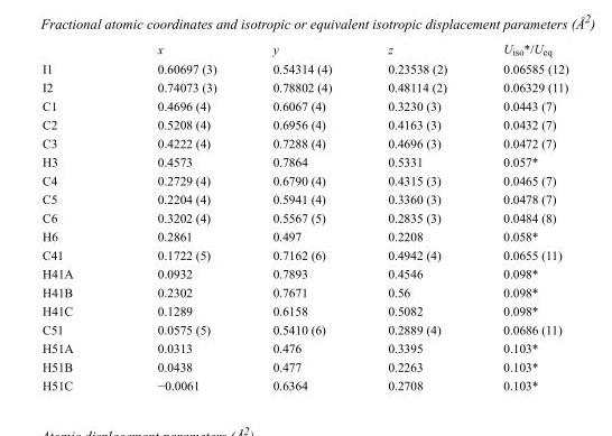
<table><thead><tr><td></td><td>x</td><td>y</td><td>z</td><td>U<sub>iso</sub>*/U<sub>eq</sub></td></tr></thead><tbody><tr><td>I1</td><td>0.60697 (3)</td><td>0.54314 (4)</td><td>0.23538 (2)</td><td>0.06585 (12)</td></tr><tr><td>I2</td><td>0.74073 (3)</td><td>0.78802 (4)</td><td>0.48114 (2)</td><td>0.06329 (11)</td></tr><tr><td>C1</td><td>0.4696 (4)</td><td>0.6067 (4)</td><td>0.3230 (3)</td><td>0.0443 (7)</td></tr><tr><td>C2</td><td>0.5208 (4)</td><td>0.6956 (4)</td><td>0.4163 (3)</td><td>0.0432 (7)</td></tr><tr><td>C3</td><td>0.4222 (4)</td><td>0.7288 (4)</td><td>0.4696 (3)</td><td>0.0472 (7)</td></tr><tr><td>H3</td><td>0.4573</td><td>0.7864</td><td>0.5331</td><td>0.057*</td></tr><tr><td>C4</td><td>0.2729 (4)</td><td>0.6790 (4)</td><td>0.4315 (3)</td><td>0.0465 (7)</td></tr><tr><td>C5</td><td>0.2204 (4)</td><td>0.5941 (4)</td><td>0.3360 (3)</td><td>0.0478 (7)</td></tr><tr><td>C6</td><td>0.3202 (4)</td><td>0.5567 (5)</td><td>0.2835 (3)</td><td>0.0484 (8)</td></tr><tr><td>H6</td><td>0.2861</td><td>0.497</td><td>0.2208</td><td>0.058*</td></tr><tr><td>C41</td><td>0.1722 (5)</td><td>0.7162 (6)</td><td>0.4942 (4)</td><td>0.0655 (11)</td></tr><tr><td>H41A</td><td>0.0932</td><td>0.7893</td><td>0.4546</td><td>0.098*</td></tr><tr><td>H41B</td><td>0.2302</td><td>0.7671</td><td>0.56</td><td>0.098*</td></tr><tr><td>H41C</td><td>0.1289</td><td>0.6158</td><td>0.5082</td><td>0.098*</td></tr><tr><td>C51</td><td>0.0575 (5)</td><td>0.5410 (6)</td><td>0.2889 (4)</td><td>0.0686 (11)</td></tr><tr><td>H51A</td><td>0.0313</td><td>0.476</td><td>0.3395</td><td>0.103*</td></tr><tr><td>H51B</td><td>0.0438</td><td>0.477</td><td>0.2263</td><td>0.103*</td></tr><tr><td>H51C</td><td>−0.0061</td><td>0.6364</td><td>0.2708</td><td>0.103*</td></tr></tbody></table>